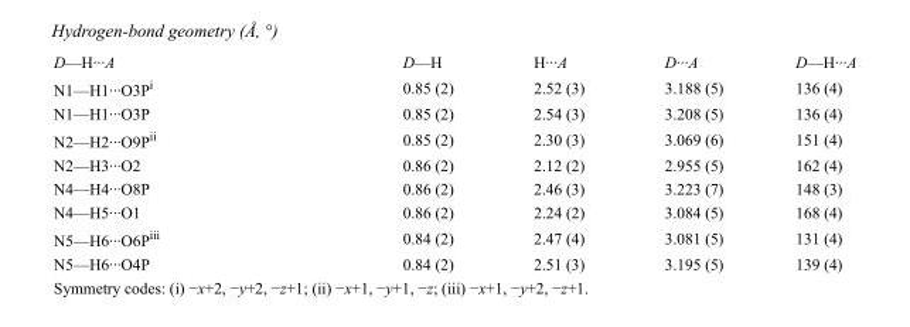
<table><tbody><tr><td>D—H···A</td><td>D—H</td><td>H···A</td><td>D···A</td><td>D—H···A</td></tr><tr><td>N1—H1···O3P<sup>i</sup></td><td>0.85 (2)</td><td>2.52 (3)</td><td>3.188 (5)</td><td>136 (4)</td></tr><tr><td>N1—H1···O3P</td><td>0.85 (2)</td><td>2.54 (3)</td><td>3.208 (5)</td><td>136 (4)</td></tr><tr><td>N2—H2···O9P<sup>ii</sup></td><td>0.85 (2)</td><td>2.30 (3)</td><td>3.069 (6)</td><td>151 (4)</td></tr><tr><td>N2—H3···O2</td><td>0.86 (2)</td><td>2.12 (2)</td><td>2.955 (5)</td><td>162 (4)</td></tr><tr><td>N4—H4···O8P</td><td>0.86 (2)</td><td>2.46 (3)</td><td>3.223 (7)</td><td>148 (3)</td></tr><tr><td>N4—H5···O1</td><td>0.86 (2)</td><td>2.24 (2)</td><td>3.084 (5)</td><td>168 (4)</td></tr><tr><td>N5—H6···O6P<sup>iii</sup></td><td>0.84 (2)</td><td>2.47 (4)</td><td>3.081 (5)</td><td>131 (4)</td></tr><tr><td>N5—H6···O4P</td><td>0.84 (2)</td><td>2.51 (3)</td><td>3.195 (5)</td><td>139 (4)</td></tr></tbody></table>